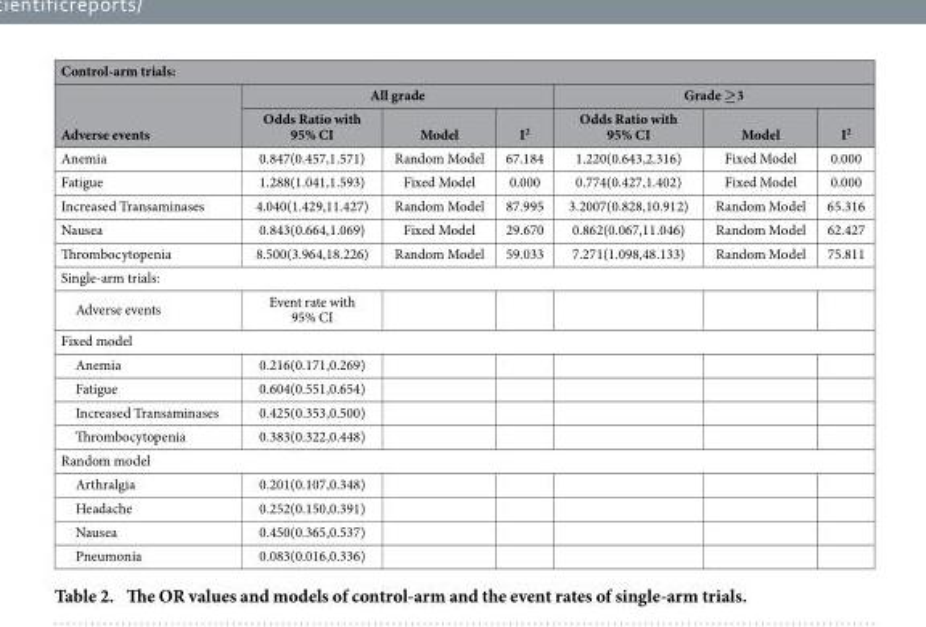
<table><thead><tr><td colspan="7">Control-arm trials:</td></tr><tr><td rowspan="2">Adverse events</td><td colspan="3">All grade</td><td colspan="3">Grade ≥3</td></tr><tr><td>Odds Ratio with 95% CI</td><td>Model</td><td>I<sup>2</sup></td><td>Odds Ratio with 95% CI</td><td>Model</td><td>I<sup>2</sup></td></tr></thead><tbody><tr><td>Anemia</td><td>0.847(0.457,1.571)</td><td>Random Model</td><td>67.184</td><td>1.220(0.643,2.316)</td><td>Fixed Model</td><td>0.000</td></tr><tr><td>Fatigue</td><td>1.288(1.041,1.593)</td><td>Fixed Model</td><td>0.000</td><td>0.774(0.427,1.402)</td><td>Fixed Model</td><td>0.000</td></tr><tr><td>Increased Transaminases</td><td>4.040(1.429,11.427)</td><td>Random Model</td><td>87.995</td><td>3.2007(0.828,10.912)</td><td>Random Model</td><td>65.316</td></tr><tr><td>Nausea</td><td>0.843(0.664,1.069)</td><td>Fixed Model</td><td>29.670</td><td>0.862(0.067,11.046)</td><td>Random Model</td><td>62.427</td></tr><tr><td>Thrombocytopenia</td><td>8.500(3.964,18.226)</td><td>Random Model</td><td>59.033</td><td>7.271(1.098,48.133)</td><td>Random Model</td><td>75.811</td></tr><tr><td colspan="7">Single-arm trials:</td></tr><tr><td>Adverse events</td><td>Event rate with 95% CI</td><td></td><td></td><td></td><td></td><td></td></tr><tr><td colspan="7">Fixed model</td></tr><tr><td>Anemia</td><td>0.216(0.171,0.269)</td><td></td><td></td><td></td><td></td><td></td></tr><tr><td>Fatigue</td><td>0.604(0.551,0.654)</td><td></td><td></td><td></td><td></td><td></td></tr><tr><td>Increased Transaminases</td><td>0.425(0.353,0.500)</td><td></td><td></td><td></td><td></td><td></td></tr><tr><td>Thrombocytopenia</td><td>0.383(0.322,0.448)</td><td></td><td></td><td></td><td></td><td></td></tr><tr><td colspan="7">Random model</td></tr><tr><td>Arthralgia</td><td>0.201(0.107,0.348)</td><td></td><td></td><td></td><td></td><td></td></tr><tr><td>Headache</td><td>0.252(0.150,0.391)</td><td></td><td></td><td></td><td></td><td></td></tr><tr><td>Nausea</td><td>0.450(0.365,0.537)</td><td></td><td></td><td></td><td></td><td></td></tr><tr><td>Pneumonia</td><td>0.083(0.016,0.336)</td><td></td><td></td><td></td><td></td><td></td></tr></tbody></table>